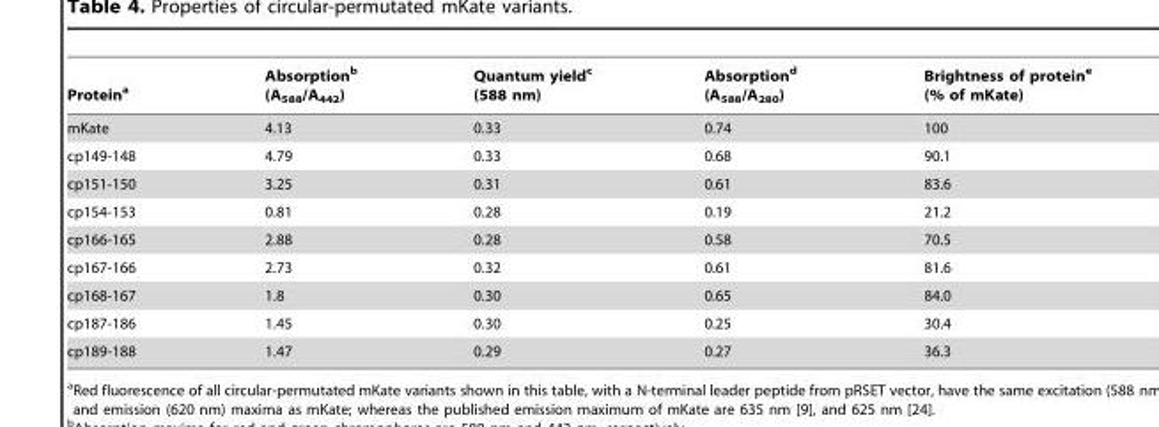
<table><thead><tr><td>Protein<sup>a</sup></td><td>Absorption<sup>b</sup> (A<sub>588</sub>/A<sub>442</sub>)</td><td>Quantum yield<sup>c</sup> (588 nm)</td><td>Absorption<sup>d</sup> (A<sub>588</sub>/A<sub>280</sub>)</td><td>Brightness of protein<sup>e</sup> (% of mKate)</td></tr></thead><tbody><tr><td>mKate</td><td>4.13</td><td>0.33</td><td>0.74</td><td>100</td></tr><tr><td>cp149-148</td><td>4.79</td><td>0.33</td><td>0.68</td><td>90.1</td></tr><tr><td>cp151-150</td><td>3.25</td><td>0.31</td><td>0.61</td><td>83.6</td></tr><tr><td>cp154-153</td><td>0.81</td><td>0.28</td><td>0.19</td><td>21.2</td></tr><tr><td>cp166-165</td><td>2.88</td><td>0.28</td><td>0.58</td><td>70.5</td></tr><tr><td>cp167-166</td><td>2.73</td><td>0.32</td><td>0.61</td><td>81.6</td></tr><tr><td>cp168-167</td><td>1.8</td><td>0.30</td><td>0.65</td><td>84.0</td></tr><tr><td>cp187-186</td><td>1.45</td><td>0.30</td><td>0.25</td><td>30.4</td></tr><tr><td>cp189-188</td><td>1.47</td><td>0.29</td><td>0.27</td><td>36.3</td></tr></tbody></table>